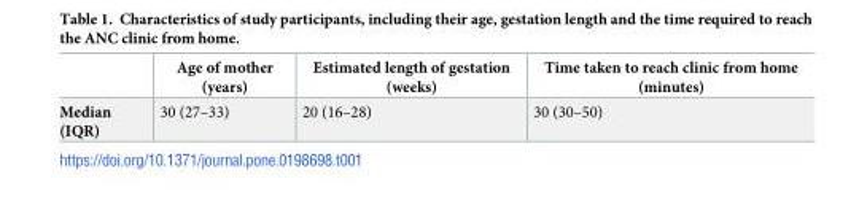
<table><thead><tr><td></td><td>Age of mother (years)</td><td>Estimated length of gestation (weeks)</td><td>Time taken to reach clinic from home (minutes)</td></tr></thead><tbody><tr><td>Median (IQR)</td><td>30 (27–33)</td><td>20 (16–28)</td><td>30 (30–50)</td></tr></tbody></table>